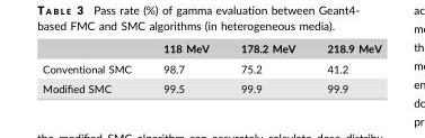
<table><thead><tr><td></td><td>118 MeV</td><td>178.2 MeV</td><td>218.9 MeV</td></tr></thead><tbody><tr><td>Conventional SMC</td><td>98.7</td><td>75.2</td><td>41.2</td></tr><tr><td>Modified SMC</td><td>99.5</td><td>99.9</td><td>99.9</td></tr></tbody></table>